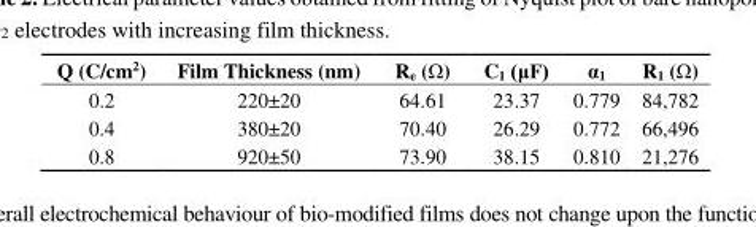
<table><thead><tr><td>Q (C/cm<sup>2</sup>)</td><td>Film Thickness (nm)</td><td>R<sub>e</sub> (Ω)</td><td>C<sub>1</sub> (μF)</td><td>α<sub>1</sub></td><td>R<sub>1</sub> (Ω)</td></tr></thead><tbody><tr><td>0.2</td><td>220±20</td><td>64.61</td><td>23.37</td><td>0.779</td><td>84,782</td></tr><tr><td>0.4</td><td>380±20</td><td>70.40</td><td>26.29</td><td>0.772</td><td>66,496</td></tr><tr><td>0.8</td><td>920±50</td><td>73.90</td><td>38.15</td><td>0.810</td><td>21,276</td></tr></tbody></table>